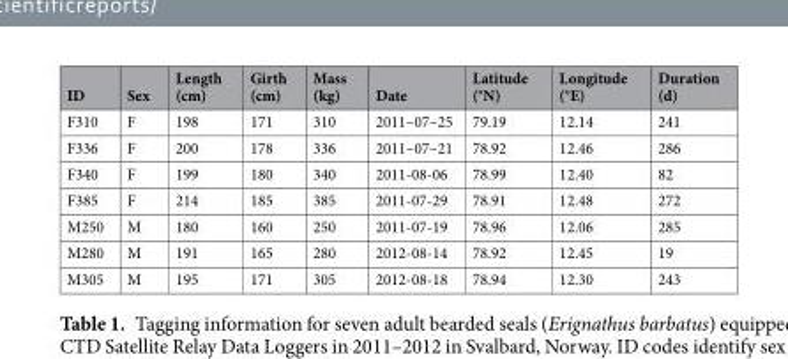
<table><thead><tr><td>ID</td><td>Sex</td><td>Length (cm)</td><td>Girth (cm)</td><td>Mass (kg)</td><td>Date</td><td>Latitude (°N)</td><td>Longitude (°E)</td><td>Duration (d)</td></tr></thead><tbody><tr><td>F310</td><td>F</td><td>198</td><td>171</td><td>310</td><td>2011–07–25</td><td>79.19</td><td>12.14</td><td>241</td></tr><tr><td>F336</td><td>F</td><td>200</td><td>178</td><td>336</td><td>2011–07–21</td><td>78.92</td><td>12.46</td><td>286</td></tr><tr><td>F340</td><td>F</td><td>199</td><td>180</td><td>340</td><td>2011-08-06</td><td>78.99</td><td>12.40</td><td>82</td></tr><tr><td>F385</td><td>F</td><td>214</td><td>185</td><td>385</td><td>2011-07-29</td><td>78.91</td><td>12.48</td><td>272</td></tr><tr><td>M250</td><td>M</td><td>180</td><td>160</td><td>250</td><td>2011-07-19</td><td>78.96</td><td>12.06</td><td>285</td></tr><tr><td>M280</td><td>M</td><td>191</td><td>165</td><td>280</td><td>2012-08-14</td><td>78.92</td><td>12.45</td><td>19</td></tr><tr><td>M305</td><td>M</td><td>195</td><td>171</td><td>305</td><td>2012-08-18</td><td>78.94</td><td>12.30</td><td>243</td></tr></tbody></table>